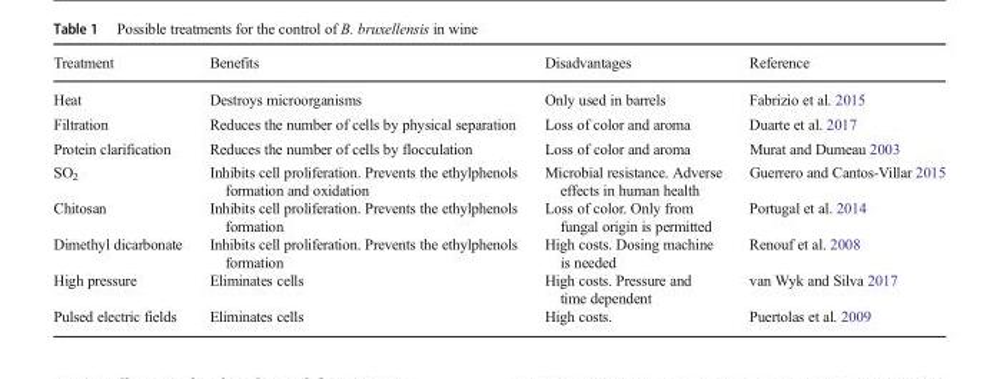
<table><thead><tr><td>Treatment</td><td>Benefits</td><td>Disadvantages</td><td>Reference</td></tr></thead><tbody><tr><td>Heat</td><td>Destroys microorganisms</td><td>Only used in barrels</td><td>Fabrizio et al. 2015</td></tr><tr><td>Filtration</td><td>Reduces the number of cells by physical separation</td><td>Loss of color and aroma</td><td>Duarte et al. 2017</td></tr><tr><td>Protein clarification</td><td>Reduces the number of cells by flocculation</td><td>Loss of color and aroma</td><td>Murat and Dumeau 2003</td></tr><tr><td>SO<sub>2</sub></td><td>Inhibits cell proliferation. Prevents the ethylphenols formation and oxidation</td><td>Microbial resistance. Adverse effects in human health</td><td>Guerrero and Cantos-Villar 2015</td></tr><tr><td>Chitosan</td><td>Inhibits cell proliferation. Prevents the ethylphenols formation</td><td>Loss of color. Only from fungal origin is permitted</td><td>Portugal et al. 2014</td></tr><tr><td>Dimethyl dicarbonate</td><td>Inhibits cell proliferation. Prevents the ethylphenols formation</td><td>High costs. Dosing machine is needed</td><td>Renouf et al. 2008</td></tr><tr><td>High pressure</td><td>Eliminates cells</td><td>High costs. Pressure and time dependent</td><td>van Wyk and Silva 2017</td></tr><tr><td>Pulsed electric fields</td><td>Eliminates cells</td><td>High costs.</td><td>Puertolas et al. 2009</td></tr></tbody></table>